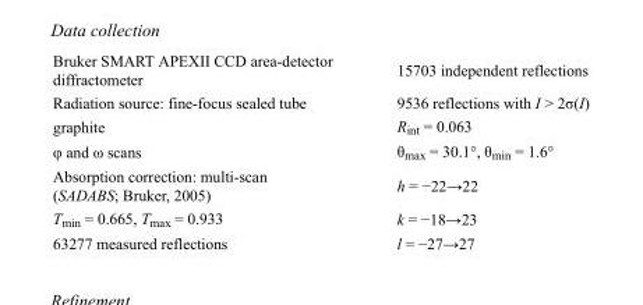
<table><tbody><tr><td>Bruker SMART APEXII CCD area-detector diffractometer</td><td>15703 independent reflections</td></tr><tr><td>Radiation source: fine-focus sealed tube</td><td>9536 reflections with I &gt; 2σ(I)</td></tr><tr><td>graphite</td><td>R<sub>int</sub> = 0.063</td></tr><tr><td>φ and ω scans</td><td>θ<sub>max</sub> = 30.1°, θ<sub>min</sub> = 1.6°</td></tr><tr><td>Absorption correction: multi-scan (SADABS; Bruker, 2005)</td><td>h = −22→22</td></tr><tr><td>T<sub>min</sub> = 0.665, T<sub>max</sub> = 0.933</td><td>k = −18→23</td></tr><tr><td>63277 measured reflections</td><td>l = −27→27</td></tr></tbody></table>